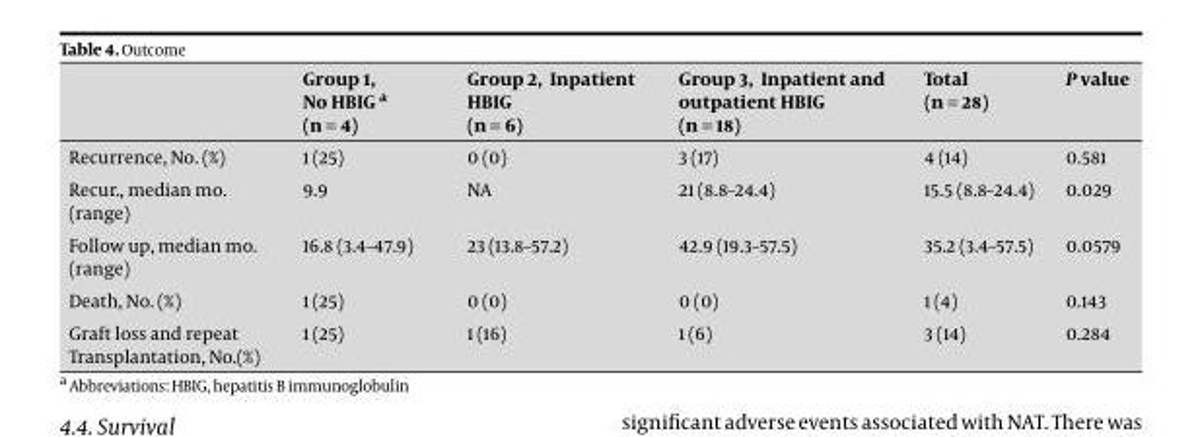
<table><thead><tr><td></td><td>Group 1, No HBIG a (n = 4)</td><td>Group 2, Inpatient HBIG (n = 6)</td><td>Group 3, Inpatient and outpatient HBIG (n = 18)</td><td>Total (n = 28)</td><td>P value</td></tr></thead><tbody><tr><td>Recurrence, No. (%)</td><td>1 (25)</td><td>0 (0)</td><td>3 (17)</td><td>4 (14)</td><td>0.581</td></tr><tr><td>Recur., median mo. (range)</td><td>9.9</td><td>NA</td><td>21 (8.8–24.4)</td><td>15.5 (8.8–24.4)</td><td>0.029</td></tr><tr><td>Follow up, median mo. (range)</td><td>16.8 (3.4–47.9)</td><td>23 (13.8–57.2)</td><td>42.9 (19.3–57.5)</td><td>35.2 (3.4–57.5)</td><td>0.0579</td></tr><tr><td>Death, No. (%)</td><td>1 (25)</td><td>0 (0)</td><td>0 (0)</td><td>1 (4)</td><td>0.143</td></tr><tr><td>Graft loss and repeat Transplantation, No.(%)</td><td>1 (25)</td><td>1 (16)</td><td>1 (6)</td><td>3 (14)</td><td>0.284</td></tr></tbody></table>